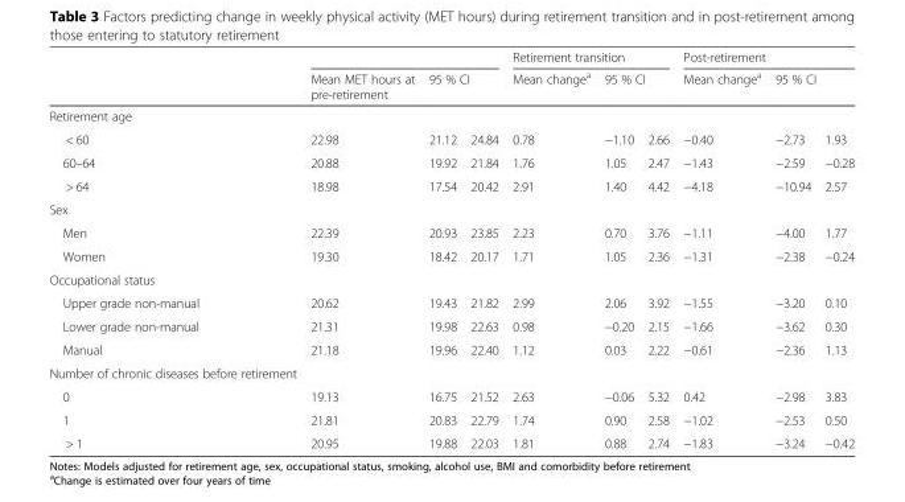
<table><thead><tr><td rowspan="3">Retirement age</td><td rowspan="3">Mean MET hours at pre-retirement</td><td></td><td></td><td colspan="3">Retirement transition</td><td colspan="3">Post-retirement</td></tr><tr><td colspan="2">95 % CI</td><td rowspan="2">Mean change<sup>a</sup></td><td colspan="2">95 % CI</td><td rowspan="2">Mean change<sup>a</sup></td><td colspan="2">95 % CI</td></tr><tr><td></td><td></td><td></td><td></td><td></td><td></td></tr></thead><tbody><tr><td>&lt; 60</td><td>22.98</td><td>21.12</td><td>24.84</td><td>0.78</td><td>−1.10</td><td>2.66</td><td>−0.40</td><td>−2.73</td><td>1.93</td></tr><tr><td>60–64</td><td>20.88</td><td>19.92</td><td>21.84</td><td>1.76</td><td>1.05</td><td>2.47</td><td>−1.43</td><td>−2.59</td><td>−0.28</td></tr><tr><td>&gt; 64</td><td>18.98</td><td>17.54</td><td>20.42</td><td>2.91</td><td>1.40</td><td>4.42</td><td>−4.18</td><td>−10.94</td><td>2.57</td></tr><tr><td colspan="10">Sex</td></tr><tr><td>Men</td><td>22.39</td><td>20.93</td><td>23.85</td><td>2.23</td><td>0.70</td><td>3.76</td><td>−1.11</td><td>−4.00</td><td>1.77</td></tr><tr><td>Women</td><td>19.30</td><td>18.42</td><td>20.17</td><td>1.71</td><td>1.05</td><td>2.36</td><td>−1.31</td><td>−2.38</td><td>−0.24</td></tr><tr><td colspan="10">Occupational status</td></tr><tr><td>Upper grade non-manual</td><td>20.62</td><td>19.43</td><td>21.82</td><td>2.99</td><td>2.06</td><td>3.92</td><td>−1.55</td><td>−3.20</td><td>0.10</td></tr><tr><td>Lower grade non-manual</td><td>21.31</td><td>19.98</td><td>22.63</td><td>0.98</td><td>−0.20</td><td>2.15</td><td>−1.66</td><td>−3.62</td><td>0.30</td></tr><tr><td>Manual</td><td>21.18</td><td>19.96</td><td>22.40</td><td>1.12</td><td>0.03</td><td>2.22</td><td>−0.61</td><td>−2.36</td><td>1.13</td></tr><tr><td colspan="10">Number of chronic diseases before retirement</td></tr><tr><td>0</td><td>19.13</td><td>16.75</td><td>21.52</td><td>2.63</td><td>−0.06</td><td>5.32</td><td>0.42</td><td>−2.98</td><td>3.83</td></tr><tr><td>1</td><td>21.81</td><td>20.83</td><td>22.79</td><td>1.74</td><td>0.90</td><td>2.58</td><td>−1.02</td><td>−2.53</td><td>0.50</td></tr><tr><td>&gt; 1</td><td>20.95</td><td>19.88</td><td>22.03</td><td>1.81</td><td>0.88</td><td>2.74</td><td>−1.83</td><td>−3.24</td><td>−0.42</td></tr></tbody></table>